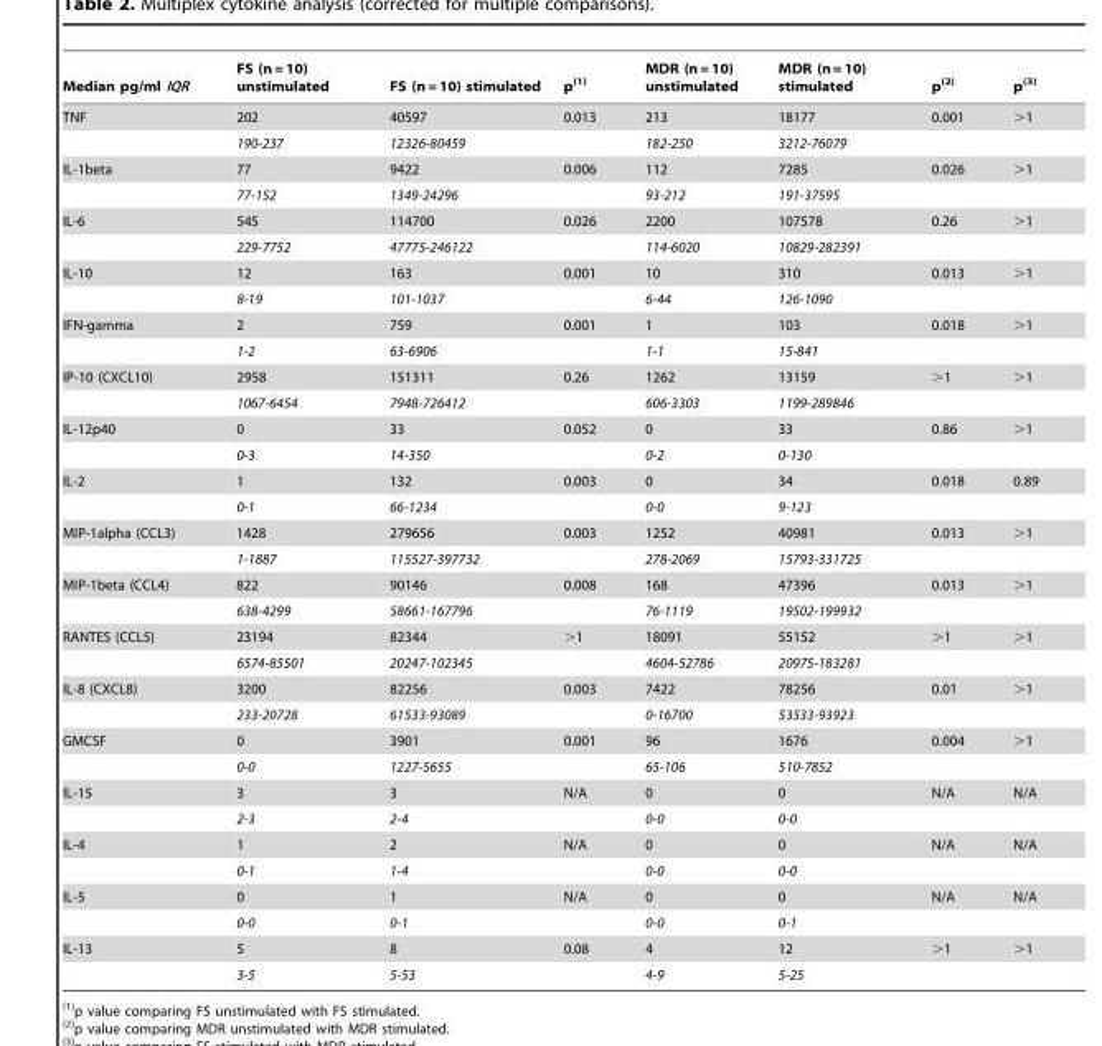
<table><thead><tr><td>Median pg/ml IQR</td><td>FS (n = 10) unstimulated</td><td>FS (n = 10) stimulated</td><td>p(1)</td><td>MDR (n = 10) unstimulated</td><td>MDR (n = 10) stimulated</td><td>p(2)</td><td>p(3)</td></tr></thead><tbody><tr><td rowspan="2">TNF</td><td>202</td><td>40597</td><td>0.013</td><td>213</td><td>18177</td><td>0.001</td><td>&gt;1</td></tr><tr><td>190-237</td><td>12326-80459</td><td></td><td>182-250</td><td>3212-76079</td><td></td><td></td></tr><tr><td rowspan="2">IL-1beta</td><td>77</td><td>9422</td><td>0.006</td><td>112</td><td>7285</td><td>0.026</td><td>&gt;1</td></tr><tr><td>77-152</td><td>1349-24296</td><td></td><td>93-212</td><td>191-37595</td><td></td><td></td></tr><tr><td rowspan="2">IL-6</td><td>545</td><td>114700</td><td>0.026</td><td>2200</td><td>107578</td><td>0.26</td><td>&gt;1</td></tr><tr><td>229-7752</td><td>47775-246122</td><td></td><td>114-6020</td><td>10829-282391</td><td></td><td></td></tr><tr><td rowspan="2">IL-10</td><td>12</td><td>163</td><td>0.001</td><td>10</td><td>310</td><td>0.013</td><td>&gt;1</td></tr><tr><td>8-19</td><td>101-1037</td><td></td><td>6-44</td><td>126-1090</td><td></td><td></td></tr><tr><td rowspan="2">IFN-gamma</td><td>2</td><td>759</td><td>0.001</td><td>1</td><td>103</td><td>0.018</td><td>&gt;1</td></tr><tr><td>1-2</td><td>63-6906</td><td></td><td>1-1</td><td>15-841</td><td></td><td></td></tr><tr><td rowspan="2">IP-10 (CXCL10)</td><td>2958</td><td>151311</td><td>0.26</td><td>1262</td><td>13159</td><td>&gt;1</td><td>&gt;1</td></tr><tr><td>1067-6454</td><td>7948-726412</td><td></td><td>606-3303</td><td>1199-289846</td><td></td><td></td></tr><tr><td rowspan="2">IL-12p40</td><td>0</td><td>33</td><td>0.052</td><td>0</td><td>33</td><td>0.86</td><td>&gt;1</td></tr><tr><td>0-3</td><td>14-350</td><td></td><td>0-2</td><td>0-130</td><td></td><td></td></tr><tr><td rowspan="2">IL-2</td><td>1</td><td>132</td><td>0.003</td><td>0</td><td>34</td><td>0.018</td><td>0.89</td></tr><tr><td>0-1</td><td>66-1234</td><td></td><td>0-0</td><td>9-123</td><td></td><td></td></tr><tr><td rowspan="2">MIP-1alpha (CCL3)</td><td>1428</td><td>279656</td><td>0.003</td><td>1252</td><td>40981</td><td>0.013</td><td>&gt;1</td></tr><tr><td>1-1887</td><td>115527-397732</td><td></td><td>278-2069</td><td>15793-331725</td><td></td><td></td></tr><tr><td rowspan="2">MIP-1beta (CCL4)</td><td>822</td><td>90146</td><td>0.008</td><td>168</td><td>47396</td><td>0.013</td><td>&gt;1</td></tr><tr><td>638-4299</td><td>58661-167796</td><td></td><td>76-1119</td><td>19502-199932</td><td></td><td></td></tr><tr><td rowspan="2">RANTES (CCL5)</td><td>23194</td><td>82344</td><td>&gt;1</td><td>18091</td><td>55152</td><td>&gt;1</td><td>&gt;1</td></tr><tr><td>6574-85501</td><td>20247-102345</td><td></td><td>4604-52786</td><td>20975-183281</td><td></td><td></td></tr><tr><td rowspan="2">IL-8 (CXCL8)</td><td>3200</td><td>82256</td><td>0.003</td><td>7422</td><td>78256</td><td>0.01</td><td>&gt;1</td></tr><tr><td>233-20728</td><td>61533-93089</td><td></td><td>0-16700</td><td>53533-93923</td><td></td><td></td></tr><tr><td rowspan="2">GMCSF</td><td>0</td><td>3901</td><td>0.001</td><td>96</td><td>1676</td><td>0.004</td><td>&gt;1</td></tr><tr><td>0-0</td><td>1227-5655</td><td></td><td>65-106</td><td>510-7852</td><td></td><td></td></tr><tr><td rowspan="2">IL-15</td><td>3</td><td>3</td><td>N/A</td><td>0</td><td>0</td><td>N/A</td><td>N/A</td></tr><tr><td>2-3</td><td>2-4</td><td></td><td>0-0</td><td>0-0</td><td></td><td></td></tr><tr><td rowspan="2">IL-4</td><td>1</td><td>2</td><td>N/A</td><td>0</td><td>0</td><td>N/A</td><td>N/A</td></tr><tr><td>0-1</td><td>1-4</td><td></td><td>0-0</td><td>0-0</td><td></td><td></td></tr><tr><td rowspan="2">IL-5</td><td>0</td><td>1</td><td>N/A</td><td>0</td><td>0</td><td>N/A</td><td>N/A</td></tr><tr><td>0-0</td><td>0-1</td><td></td><td>0-0</td><td>0-1</td><td></td><td></td></tr><tr><td rowspan="2">IL-13</td><td>5</td><td>8</td><td>0.08</td><td>4</td><td>12</td><td>&gt;1</td><td>&gt;1</td></tr><tr><td>3-5</td><td>5-53</td><td></td><td>4-9</td><td>5-25</td><td></td><td></td></tr></tbody></table>